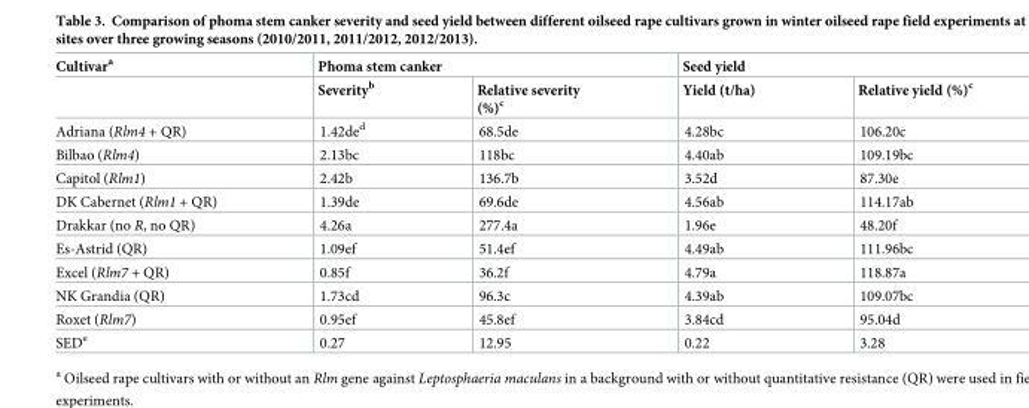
<table><thead><tr><td rowspan="2">Cultivar<sup>a</sup></td><td colspan="2">Phoma stem canker</td><td colspan="2">Seed yield</td></tr><tr><td>Severity<sup>b</sup></td><td>Relative severity (%)<sup>c</sup></td><td>Yield (t/ha)</td><td>Relative yield (%)<sup>c</sup></td></tr></thead><tbody><tr><td>Adriana (Rlm4 + QR)</td><td>1.42de<sup>d</sup></td><td>68.5de</td><td>4.28bc</td><td>106.20c</td></tr><tr><td>Bilbao (Rlm4)</td><td>2.13bc</td><td>118bc</td><td>4.40ab</td><td>109.19bc</td></tr><tr><td>Capitol (Rlm1)</td><td>2.42b</td><td>136.7b</td><td>3.52d</td><td>87.30e</td></tr><tr><td>DK Cabernet (Rlm1 + QR)</td><td>1.39de</td><td>69.6de</td><td>4.56ab</td><td>114.17ab</td></tr><tr><td>Drakkar (no R, no QR)</td><td>4.26a</td><td>277.4a</td><td>1.96e</td><td>48.20f</td></tr><tr><td>Es-Astrid (QR)</td><td>1.09ef</td><td>51.4ef</td><td>4.49ab</td><td>111.96bc</td></tr><tr><td>Excel (Rlm7 + QR)</td><td>0.85f</td><td>36.2f</td><td>4.79a</td><td>118.87a</td></tr><tr><td>NK Grandia (QR)</td><td>1.73cd</td><td>96.3c</td><td>4.39ab</td><td>109.07bc</td></tr><tr><td>Roxet (Rlm7)</td><td>0.95ef</td><td>45.8ef</td><td>3.84cd</td><td>95.04d</td></tr><tr><td>SED<sup>e</sup></td><td>0.27</td><td>12.95</td><td>0.22</td><td>3.28</td></tr></tbody></table>